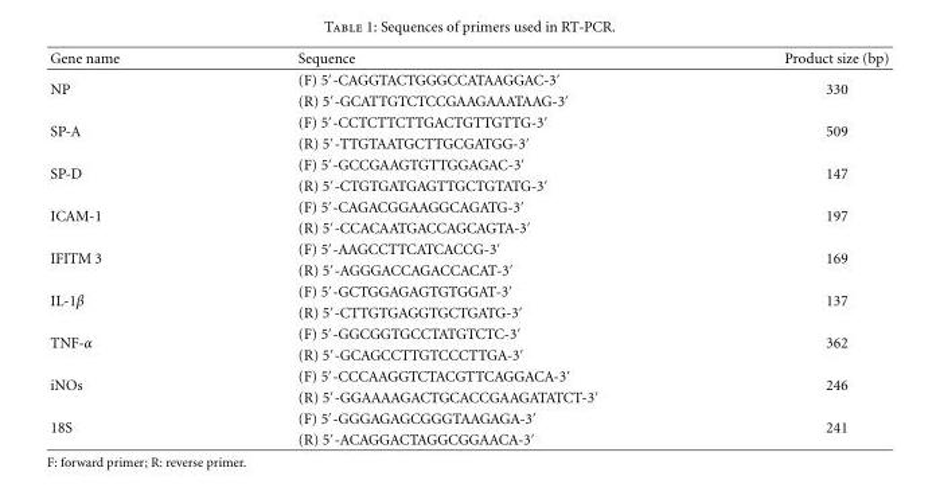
<table><thead><tr><td>Gene name</td><td>Sequence</td><td>Product size (bp)</td></tr></thead><tbody><tr><td rowspan="2">NP</td><td>(F) 5′-CAGGTACTGGGCCATAAGGAC-3′</td><td rowspan="2">330</td></tr><tr><td>(R) 5′-GCATTGTCTCCGAAGAAATAAG-3′</td></tr><tr><td rowspan="2">SP-A</td><td>(F) 5′-CCTCTTCTTGACTGTTGTTG-3′</td><td rowspan="2">509</td></tr><tr><td>(R) 5′-TTGTAATGCTTGCGATGG-3′</td></tr><tr><td rowspan="2">SP-D</td><td>(F) 5′-GCCGAAGTGTTGGAGAC-3′</td><td rowspan="2">147</td></tr><tr><td>(R) 5′-CTGTGATGAGTTGCTGTATG-3′</td></tr><tr><td rowspan="2">ICAM-1</td><td>(F) 5′-CAGACGGAAGGCAGATG-3′</td><td rowspan="2">197</td></tr><tr><td>(R) 5′-CCACAATGACCAGCAGTA-3′</td></tr><tr><td rowspan="2">IFITM 3</td><td>(F) 5′-AAGCCTTCATCACCG-3′</td><td rowspan="2">169</td></tr><tr><td>(R) 5′-AGGGACCAGACCACAT-3′</td></tr><tr><td rowspan="2">IL-1β</td><td>(F) 5′-GCTGGAGAGTGTGGAT-3′</td><td rowspan="2">137</td></tr><tr><td>(R) 5′-CTTGTGAGGTGCTGATG-3′</td></tr><tr><td rowspan="2">TNF-α</td><td>(F) 5′-GGCGGTGCCTATGTCTC-3′</td><td rowspan="2">362</td></tr><tr><td>(R) 5′-GCAGCCTTGTCCCTTGA-3′</td></tr><tr><td rowspan="2">iNOs</td><td>(F) 5′-CCCAAGGTCTACGTTCAGGACA-3′</td><td rowspan="2">246</td></tr><tr><td>(R) 5′-GGAAAAGACTGCACCGAAGATATCT-3′</td></tr><tr><td rowspan="2">18S</td><td>(F) 5′-GGGAGAGCGGGTAAGAGA-3′</td><td rowspan="2">241</td></tr><tr><td>(R) 5′-ACAGGACTAGGCGGAACA-3′</td></tr></tbody></table>